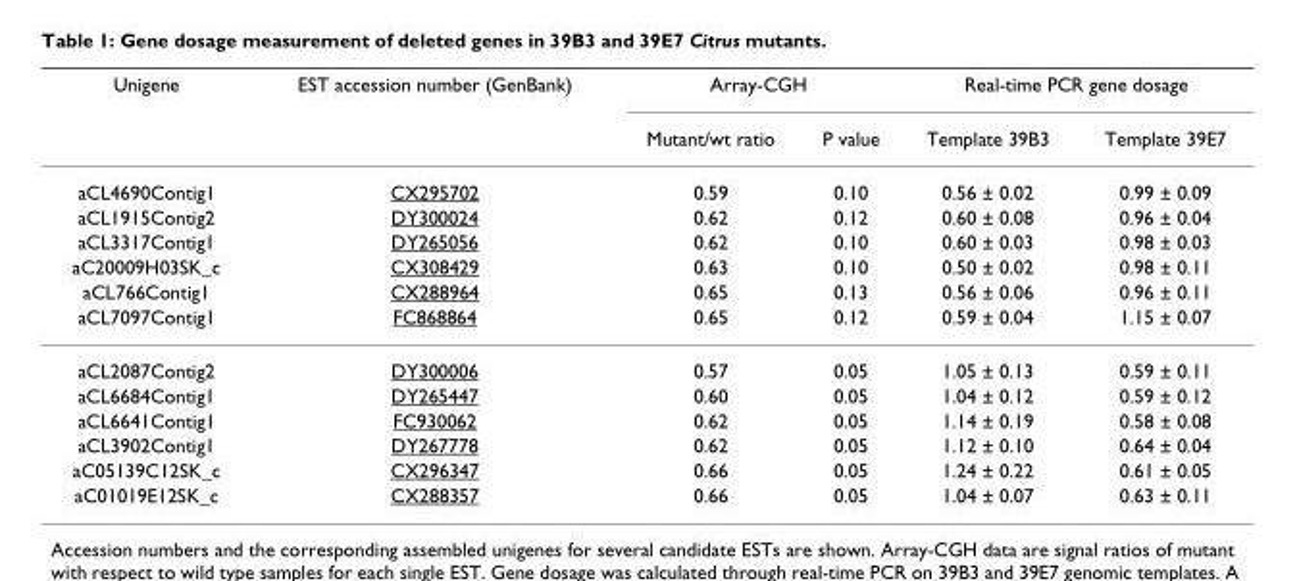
<table><thead><tr><td rowspan="2">Unigene</td><td rowspan="2">EST accession number (GenBank)</td><td colspan="2">Array-CGH</td><td colspan="2">Real-time PCR gene dosage</td></tr><tr><td>Mutant/wt ratio</td><td>P value</td><td>Template 39B3</td><td>Template 39E7</td></tr></thead><tbody><tr><td>aCL4690Contig1</td><td>CX295702</td><td>0.59</td><td>0.10</td><td>0.56 ± 0.02</td><td>0.99 ± 0.09</td></tr><tr><td>aCL1915Contig2</td><td>DY300024</td><td>0.62</td><td>0.12</td><td>0.60 ± 0.08</td><td>0.96 ± 0.04</td></tr><tr><td>aCL3317Contig1</td><td>DY265056</td><td>0.62</td><td>0.10</td><td>0.60 ± 0.03</td><td>0.98 ± 0.03</td></tr><tr><td>aC20009H03SK_c</td><td>CX308429</td><td>0.63</td><td>0.10</td><td>0.50 ± 0.02</td><td>0.98 ± 0.11</td></tr><tr><td>aCL766Contig1</td><td>CX288964</td><td>0.65</td><td>0.13</td><td>0.56 ± 0.06</td><td>0.96 ± 0.11</td></tr><tr><td>aCL7097Contig1</td><td>FC868864</td><td>0.65</td><td>0.12</td><td>0.59 ± 0.04</td><td>1.15 ± 0.07</td></tr><tr><td>aCL2087Contig2</td><td>DY300006</td><td>0.57</td><td>0.05</td><td>1.05 ± 0.13</td><td>0.59 ± 0.11</td></tr><tr><td>aCL6684Contig1</td><td>DY265447</td><td>0.60</td><td>0.05</td><td>1.04 ± 0.12</td><td>0.59 ± 0.12</td></tr><tr><td>aCL6641Contig1</td><td>FC930062</td><td>0.62</td><td>0.05</td><td>1.14 ± 0.19</td><td>0.58 ± 0.08</td></tr><tr><td>aCL3902Contig1</td><td>DY267778</td><td>0.62</td><td>0.05</td><td>1.12 ± 0.10</td><td>0.64 ± 0.04</td></tr><tr><td>aC05139C12SK_c</td><td>CX296347</td><td>0.66</td><td>0.05</td><td>1.24 ± 0.22</td><td>0.61 ± 0.05</td></tr><tr><td>aC01019E12SK_c</td><td>CX288357</td><td>0.66</td><td>0.05</td><td>1.04 ± 0.07</td><td>0.63 ± 0.11</td></tr></tbody></table>